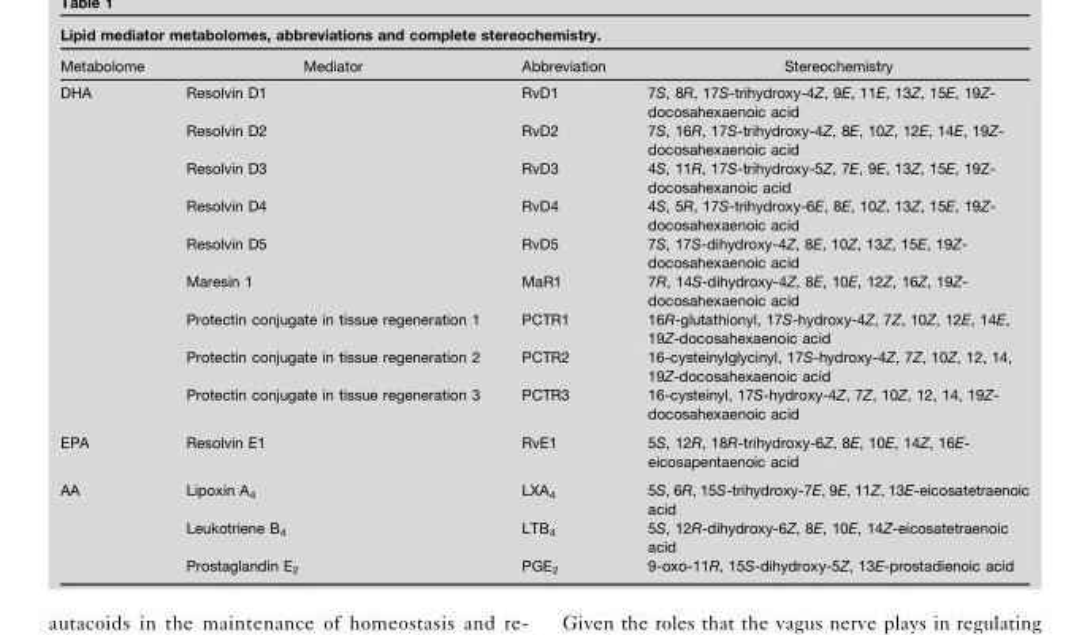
<table><thead><tr><td>Metabolome</td><td>Mediator</td><td>Abbreviation</td><td>Stereochemistry</td></tr></thead><tbody><tr><td rowspan="9">DHA</td><td>Resolvin D1</td><td>RvD1</td><td>7S, 8R, 17S-trihydroxy-4Z, 9E, 11E, 13Z, 15E, 19Z- docosahexaenoic acid</td></tr><tr><td>Resolvin D2</td><td>RvD2</td><td>7S, 16R, 17S-trihydroxy-4Z, 8E, 10Z, 12E, 14E, 19Z- docosahexaenoic acid</td></tr><tr><td>Resolvin D3</td><td>RvD3</td><td>4S, 11R, 17S-trihydroxy-5Z, 7E, 9E, 13Z, 15E, 19Z- docosahexanoic acid</td></tr><tr><td>Resolvin D4</td><td>RvD4</td><td>4S, 5R, 17S-trihydroxy-6E, 8E, 10Z, 13Z, 15E, 19Z- docosahexaenoic acid</td></tr><tr><td>Resolvin D5</td><td>RvD5</td><td>7S, 17S-dihydroxy-4Z, 8E, 10Z, 13Z, 15E, 19Z- docosahexaenoic acid</td></tr><tr><td>Maresin 1</td><td>MaR1</td><td>7R, 14S-dihydroxy-4Z, 8E, 10E, 12Z, 16Z, 19Z- docosahexaenoic acid</td></tr><tr><td>Protectin conjugate in tissue regeneration 1</td><td>PCTR1</td><td>16R-glutathionyl, 17S-hydroxy-4Z, 7Z, 10Z, 12E, 14E, 19Z-docosahexaenoic acid</td></tr><tr><td>Protectin conjugate in tissue regeneration 2</td><td>PCTR2</td><td>16-cysteinylglycinyl, 17S-hydroxy-4Z, 7Z, 10Z, 12, 14, 19Z-docosahexaenoic acid</td></tr><tr><td>Protectin conjugate in tissue regeneration 3</td><td>PCTR3</td><td>16-cysteinyl, 17S-hydroxy-4Z, 7Z, 10Z, 12, 14, 19Z- docosahexaenoic acid</td></tr><tr><td>EPA</td><td>Resolvin E1</td><td>RvE1</td><td>5S, 12R, 18R-trihydroxy-6Z, 8E, 10E, 14Z, 16E- eicosapentaenoic acid</td></tr><tr><td rowspan="3">AA</td><td>Lipoxin A<sub>4</sub></td><td>LXA<sub>4</sub></td><td>5S, 6R, 15S-trihydroxy-7E, 9E, 11Z, 13E-eicosatetraenoic acid</td></tr><tr><td>Leukotriene B<sub>4</sub></td><td>LTB<sub>4</sub></td><td>5S, 12R-dihydroxy-6Z, 8E, 10E, 14Z-eicosatetraenoic acid</td></tr><tr><td>Prostaglandin E<sub>2</sub></td><td>PGE<sub>2</sub></td><td>9-oxo-11R, 15S-dihydroxy-5Z, 13E-prostadienoic acid</td></tr></tbody></table>